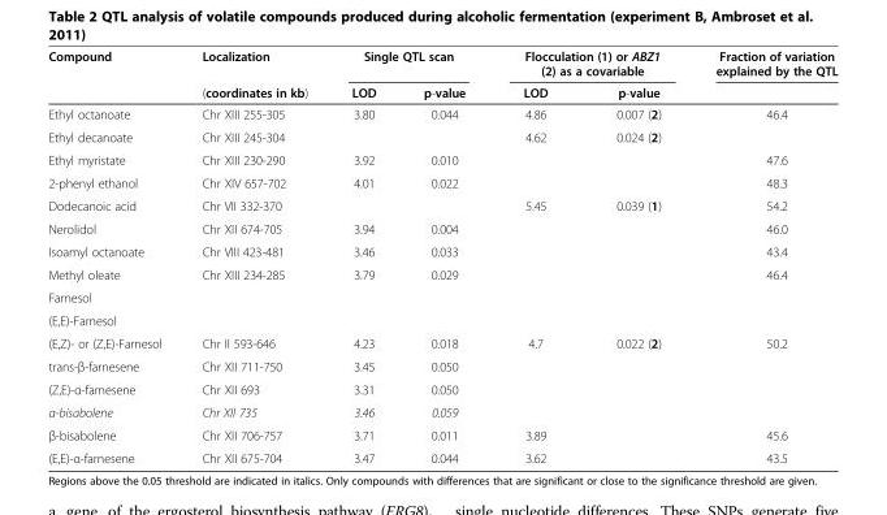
<table><thead><tr><td rowspan="2">Compound</td><td rowspan="2">Localization (coordinates in kb)</td><td colspan="2">Single QTL scan</td><td colspan="2">Flocculation (1) or ABZ1 (2) as a covariable</td><td rowspan="2">Fraction of variation explained by the QTL</td></tr><tr><td>LOD</td><td>p-value</td><td>LOD</td><td>p-value</td></tr></thead><tbody><tr><td>Ethyl octanoate</td><td>Chr XIII 255-305</td><td>3.80</td><td>0.044</td><td>4.86</td><td>0.007 (2)</td><td>46.4</td></tr><tr><td>Ethyl decanoate</td><td>Chr XIII 245-304</td><td></td><td></td><td>4.62</td><td>0.024 (2)</td><td></td></tr><tr><td>Ethyl myristate</td><td>Chr XIII 230-290</td><td>3.92</td><td>0.010</td><td></td><td></td><td>47.6</td></tr><tr><td>2-phenyl ethanol</td><td>Chr XIV 657-702</td><td>4.01</td><td>0.022</td><td></td><td></td><td>48.3</td></tr><tr><td>Dodecanoic acid</td><td>Chr VII 332-370</td><td></td><td></td><td>5.45</td><td>0.039 (1)</td><td>54.2</td></tr><tr><td>Nerolidol</td><td>Chr XII 674-705</td><td>3.94</td><td>0.004</td><td></td><td></td><td>46.0</td></tr><tr><td>Isoamyl octanoate</td><td>Chr VIII 423-481</td><td>3.46</td><td>0.033</td><td></td><td></td><td>43.4</td></tr><tr><td>Methyl oleate</td><td>Chr XIII 234-285</td><td>3.79</td><td>0.029</td><td></td><td></td><td>46.4</td></tr><tr><td colspan="7">Farnesol</td></tr><tr><td colspan="7">(E,E)-Farnesol</td></tr><tr><td>(E,Z)- or (Z,E)-Farnesol</td><td>Chr II 593-646</td><td>4.23</td><td>0.018</td><td>4.7</td><td>0.022 (2)</td><td>50.2</td></tr><tr><td>trans-β-farnesene</td><td>Chr XII 711-750</td><td>3.45</td><td>0.050</td><td></td><td></td><td></td></tr><tr><td>(Z,E)-α-farnesene</td><td>Chr XII 693</td><td>3.31</td><td>0.050</td><td></td><td></td><td></td></tr><tr><td>α-bisabolene</td><td>Chr XII 735</td><td>3.46</td><td>0.059</td><td></td><td></td><td></td></tr><tr><td>β-bisabolene</td><td>Chr XII 706-757</td><td>3.71</td><td>0.011</td><td>3.89</td><td></td><td>45.6</td></tr><tr><td>(E,E)-α-farnesene</td><td>Chr XII 675-704</td><td>3.47</td><td>0.044</td><td>3.62</td><td></td><td>43.5</td></tr></tbody></table>